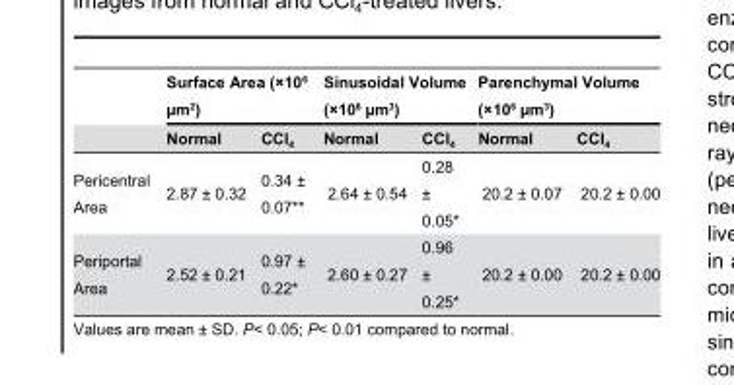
<table><thead><tr><td rowspan="2"></td><td colspan="2">Surface Area (×10<sup>6</sup> µm<sup>2</sup>)</td><td colspan="2">Sinusoidal Volume (×10<sup>6</sup> µm<sup>3</sup>)</td><td colspan="2">Parenchymal Volume (×10<sup>6</sup> µm<sup>3</sup>)</td></tr><tr><td>Normal</td><td>CCl<sub>4</sub></td><td>Normal</td><td>CCl<sub>4</sub></td><td>Normal</td><td>CCl<sub>4</sub></td></tr></thead><tbody><tr><td>Pericentral Area</td><td>2.87 ± 0.32</td><td>0.34 ± 0.07**</td><td>2.64 ± 0.54</td><td>0.28 ± 0.05*</td><td>20.2 ± 0.07</td><td>20.2 ± 0.00</td></tr><tr><td>Periportal Area</td><td>2.52 ± 0.21</td><td>0.97 ± 0.22*</td><td>2.60 ± 0.27</td><td>0.96 ± 0.25*</td><td>20.2 ± 0.00</td><td>20.2 ± 0.00</td></tr></tbody></table>